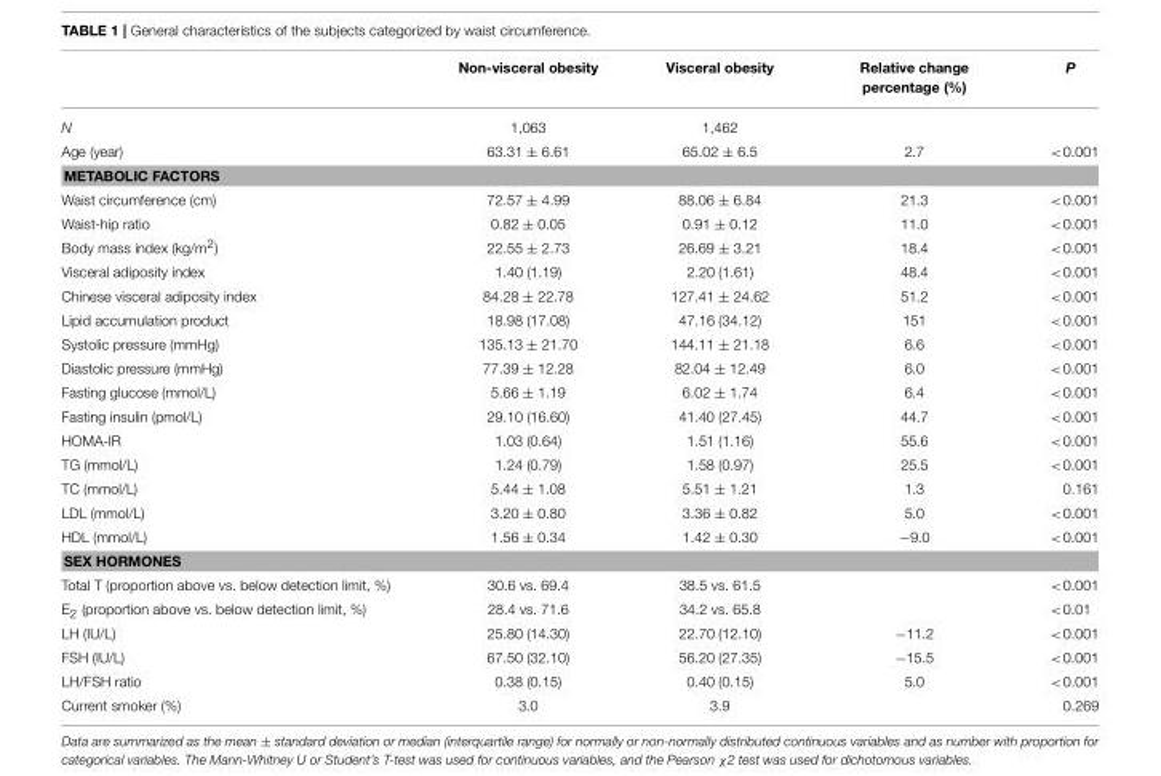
<table><thead><tr><td></td><td>Non-visceral obesity</td><td>Visceral obesity</td><td>Relative change percentage (%)</td><td>P</td></tr></thead><tbody><tr><td>N</td><td>1,063</td><td>1,462</td><td></td><td></td></tr><tr><td>Age (year)</td><td>63.31 ± 6.61</td><td>65.02 ± 6.5</td><td>2.7</td><td>&lt;0.001</td></tr><tr><td colspan="5">METABOLIC FACTORS</td></tr><tr><td>Waist circumference (cm)</td><td>72.57 ± 4.99</td><td>88.06 ± 6.84</td><td>21.3</td><td>&lt;0.001</td></tr><tr><td>Waist-hip ratio</td><td>0.82 ± 0.05</td><td>0.91 ± 0.12</td><td>11.0</td><td>&lt;0.001</td></tr><tr><td>Body mass index (kg/m<sup>2</sup>)</td><td>22.55 ± 2.73</td><td>26.69 ± 3.21</td><td>18.4</td><td>&lt;0.001</td></tr><tr><td>Visceral adiposity index</td><td>1.40 (1.19)</td><td>2.20 (1.61)</td><td>48.4</td><td>&lt;0.001</td></tr><tr><td>Chinese visceral adiposity index</td><td>84.28 ± 22.78</td><td>127.41 ± 24.62</td><td>51.2</td><td>&lt;0.001</td></tr><tr><td>Lipid accumulation product</td><td>18.98 (17.08)</td><td>47.16 (34.12)</td><td>151</td><td>&lt;0.001</td></tr><tr><td>Systolic pressure (mmHg)</td><td>135.13 ± 21.70</td><td>144.11 ± 21.18</td><td>6.6</td><td>&lt;0.001</td></tr><tr><td>Diastolic pressure (mmHg)</td><td>77.39 ± 12.28</td><td>82.04 ± 12.49</td><td>6.0</td><td>&lt;0.001</td></tr><tr><td>Fasting glucose (mmol/L)</td><td>5.66 ± 1.19</td><td>6.02 ± 1.74</td><td>6.4</td><td>&lt;0.001</td></tr><tr><td>Fasting insulin (pmol/L)</td><td>29.10 (16.60)</td><td>41.40 (27.45)</td><td>44.7</td><td>&lt;0.001</td></tr><tr><td>HOMA-IR</td><td>1.03 (0.64)</td><td>1.51 (1.16)</td><td>55.6</td><td>&lt;0.001</td></tr><tr><td>TG (mmol/L)</td><td>1.24 (0.79)</td><td>1.58 (0.97)</td><td>25.5</td><td>&lt;0.001</td></tr><tr><td>TC (mmol/L)</td><td>5.44 ± 1.08</td><td>5.51 ± 1.21</td><td>1.3</td><td>0.161</td></tr><tr><td>LDL (mmol/L)</td><td>3.20 ± 0.80</td><td>3.36 ± 0.82</td><td>5.0</td><td>&lt;0.001</td></tr><tr><td>HDL (mmol/L)</td><td>1.56 ± 0.34</td><td>1.42 ± 0.30</td><td>−9.0</td><td>&lt;0.001</td></tr><tr><td colspan="5">SEX HORMONES</td></tr><tr><td>Total T (proportion above vs. below detection limit, %)</td><td>30.6 vs. 69.4</td><td>38.5 vs. 61.5</td><td></td><td>&lt;0.001</td></tr><tr><td>E<sub>2</sub> (proportion above vs. below detection limit, %)</td><td>28.4 vs. 71.6</td><td>34.2 vs. 65.8</td><td></td><td>&lt;0.01</td></tr><tr><td>LH (IU/L)</td><td>25.80 (14.30)</td><td>22.70 (12.10)</td><td>−11.2</td><td>&lt;0.001</td></tr><tr><td>FSH (IU/L)</td><td>67.50 (32.10)</td><td>56.20 (27.35)</td><td>−15.5</td><td>&lt;0.001</td></tr><tr><td>LH/FSH ratio</td><td>0.38 (0.15)</td><td>0.40 (0.15)</td><td>5.0</td><td>&lt;0.001</td></tr><tr><td>Current smoker (%)</td><td>3.0</td><td>3.9</td><td></td><td>0.269</td></tr></tbody></table>